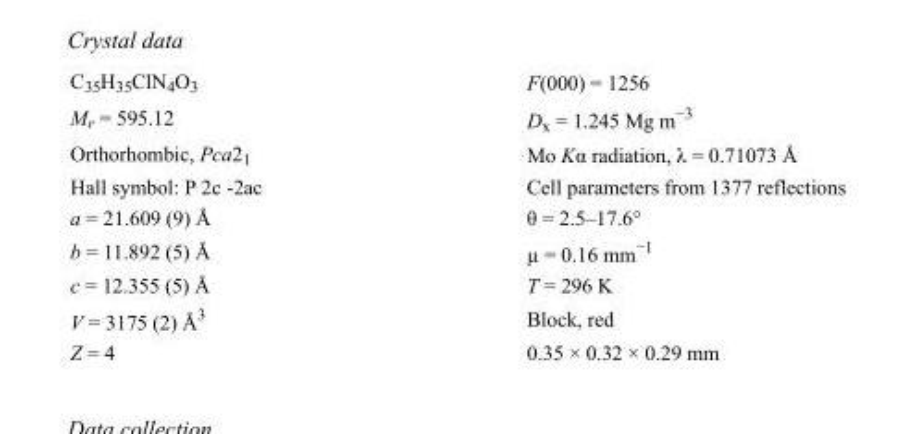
<table><tbody><tr><td>C<sub>35</sub>H<sub>35</sub>ClN<sub>4</sub>O<sub>3</sub></td><td>F(000) = 1256</td></tr><tr><td>M<sub>r</sub> = 595.12</td><td>D<sub>x</sub> = 1.245 Mg m<sup>−3</sup></td></tr><tr><td>Orthorhombic, Pca2<sub>1</sub></td><td>Mo Kα radiation, λ = 0.71073 Å</td></tr><tr><td>Hall symbol: P 2c -2ac</td><td>Cell parameters from 1377 reflections</td></tr><tr><td>a = 21.609 (9) Å</td><td>θ = 2.5–17.6°</td></tr><tr><td>b = 11.892 (5) Å</td><td>µ = 0.16 mm<sup>−1</sup></td></tr><tr><td>c = 12.355 (5) Å</td><td>T = 296 K</td></tr><tr><td>V = 3175 (2) Å<sup>3</sup></td><td>Block, red</td></tr><tr><td>Z = 4</td><td>0.35 × 0.32 × 0.29 mm</td></tr></tbody></table>